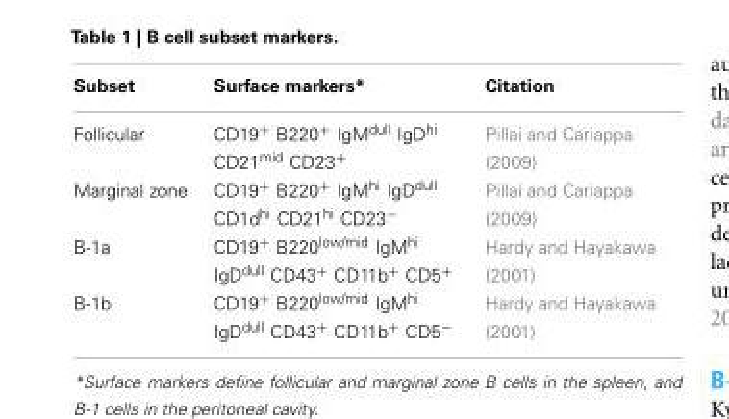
<table><thead><tr><td>Subset</td><td>Surface markers*</td><td>Citation</td></tr></thead><tbody><tr><td>Follicular</td><td>CD19<sup>+</sup> B220<sup>+</sup> IgM<sup>dull</sup> IgD<sup>hi</sup> CD21<sup>mid</sup> CD23<sup>+</sup></td><td>Pillai and Cariappa (2009)</td></tr><tr><td>Marginal zone</td><td>CD19<sup>+</sup> B220<sup>+</sup> IgM<sup>hi</sup> IgD<sup>dull</sup> CD1d<sup>hi</sup> CD21<sup>hi</sup> CD23<sup>−</sup></td><td>Pillai and Cariappa (2009)</td></tr><tr><td>B-1a</td><td>CD19<sup>+</sup> B220<sup>low/mid</sup> IgM<sup>hi</sup> IgD<sup>dull</sup> CD43<sup>+</sup> CD11b<sup>+</sup> CD5<sup>+</sup></td><td>Hardy and Hayakawa (2001)</td></tr><tr><td>B-1b</td><td>CD19<sup>+</sup> B220<sup>low/mid</sup> IgM<sup>hi</sup> IgD<sup>dull</sup> CD43<sup>+</sup> CD11b<sup>+</sup> CD5<sup>−</sup></td><td>Hardy and Hayakawa (2001)</td></tr></tbody></table>